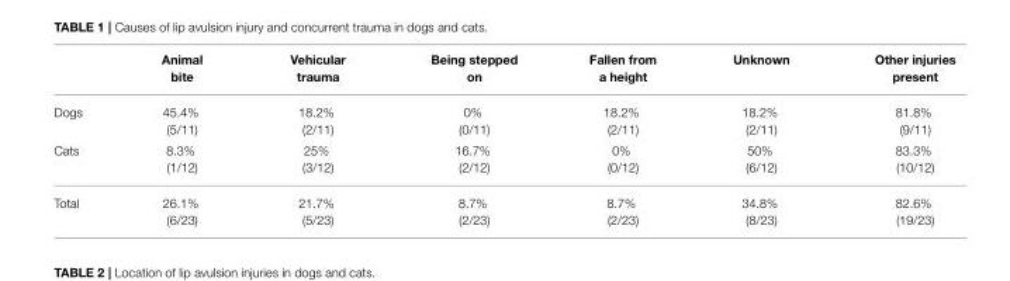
<table><thead><tr><td></td><td>Animal bite</td><td>Vehicular trauma</td><td>Being stepped on</td><td>Fallen from a height</td><td>Unknown</td><td>Other injuries present</td></tr></thead><tbody><tr><td>Dogs</td><td>45.4% (5/11)</td><td>18.2% (2/11)</td><td>0% (0/11)</td><td>18.2% (2/11)</td><td>18.2% (2/11)</td><td>81.8% (9/11)</td></tr><tr><td>Cats</td><td>8.3% (1/12)</td><td>25% (3/12)</td><td>16.7% (2/12)</td><td>0% (0/12)</td><td>50% (6/12)</td><td>83.3% (10/12)</td></tr><tr><td>Total</td><td>26.1% (6/23)</td><td>21.7% (5/23)</td><td>8.7% (2/23)</td><td>8.7% (2/23)</td><td>34.8% (8/23)</td><td>82.6% (19/23)</td></tr></tbody></table>